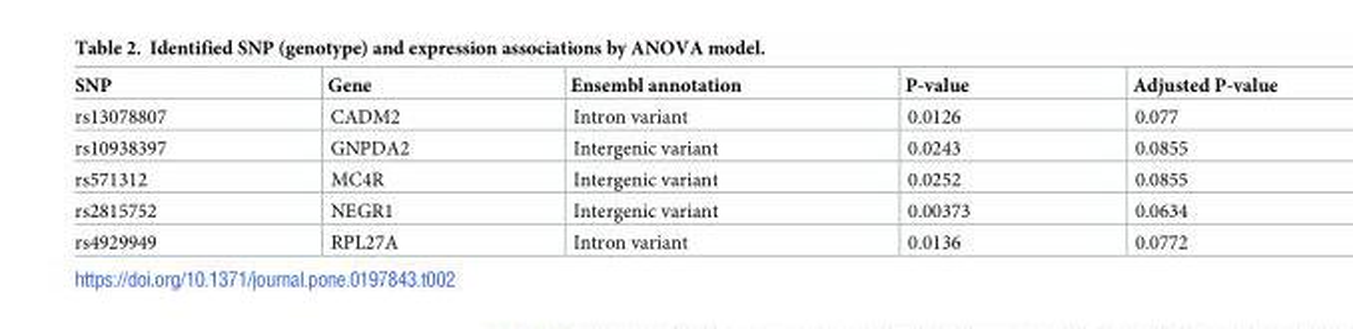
<table><thead><tr><td>SNP</td><td>Gene</td><td>Ensembl annotation</td><td>P-value</td><td>Adjusted P-value</td></tr></thead><tbody><tr><td>rs13078807</td><td>CADM2</td><td>Intron variant</td><td>0.0126</td><td>0.077</td></tr><tr><td>rs10938397</td><td>GNPDA2</td><td>Intergenic variant</td><td>0.0243</td><td>0.0855</td></tr><tr><td>rs571312</td><td>MC4R</td><td>Intergenic variant</td><td>0.0252</td><td>0.0855</td></tr><tr><td>rs2815752</td><td>NEGR1</td><td>Intergenic variant</td><td>0.00373</td><td>0.0634</td></tr><tr><td>rs4929949</td><td>RPL27A</td><td>Intron variant</td><td>0.0136</td><td>0.0772</td></tr></tbody></table>